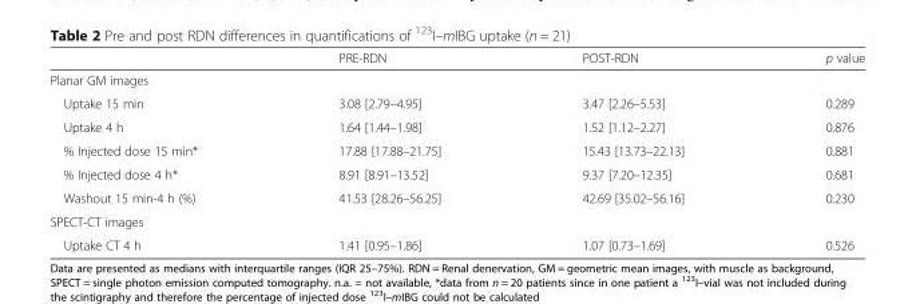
<table><thead><tr><td></td><td>PRE-RDN</td><td>POST-RDN</td><td>p value</td></tr></thead><tbody><tr><td colspan="4">Planar GM images</td></tr><tr><td>Uptake 15 min</td><td>3.08 [2.79–4.95]</td><td>3.47 [2.26–5.53]</td><td>0.289</td></tr><tr><td>Uptake 4 h</td><td>1.64 [1.44–1.98]</td><td>1.52 [1.12–2.27]</td><td>0.876</td></tr><tr><td>% Injected dose 15 min*</td><td>17.88 [17.88–21.75]</td><td>15.43 [13.73–22.13]</td><td>0.881</td></tr><tr><td>% Injected dose 4 h*</td><td>8.91 [8.91–13.52]</td><td>9.37 [7.20–12.35]</td><td>0.681</td></tr><tr><td>Washout 15 min-4 h (%)</td><td>41.53 [28.26–56.25]</td><td>42.69 [35.02–56.16]</td><td>0.230</td></tr><tr><td colspan="4">SPECT-CT images</td></tr><tr><td>Uptake CT 4 h</td><td>1.41 [0.95–1.86]</td><td>1.07 [0.73–1.69]</td><td>0.526</td></tr></tbody></table>